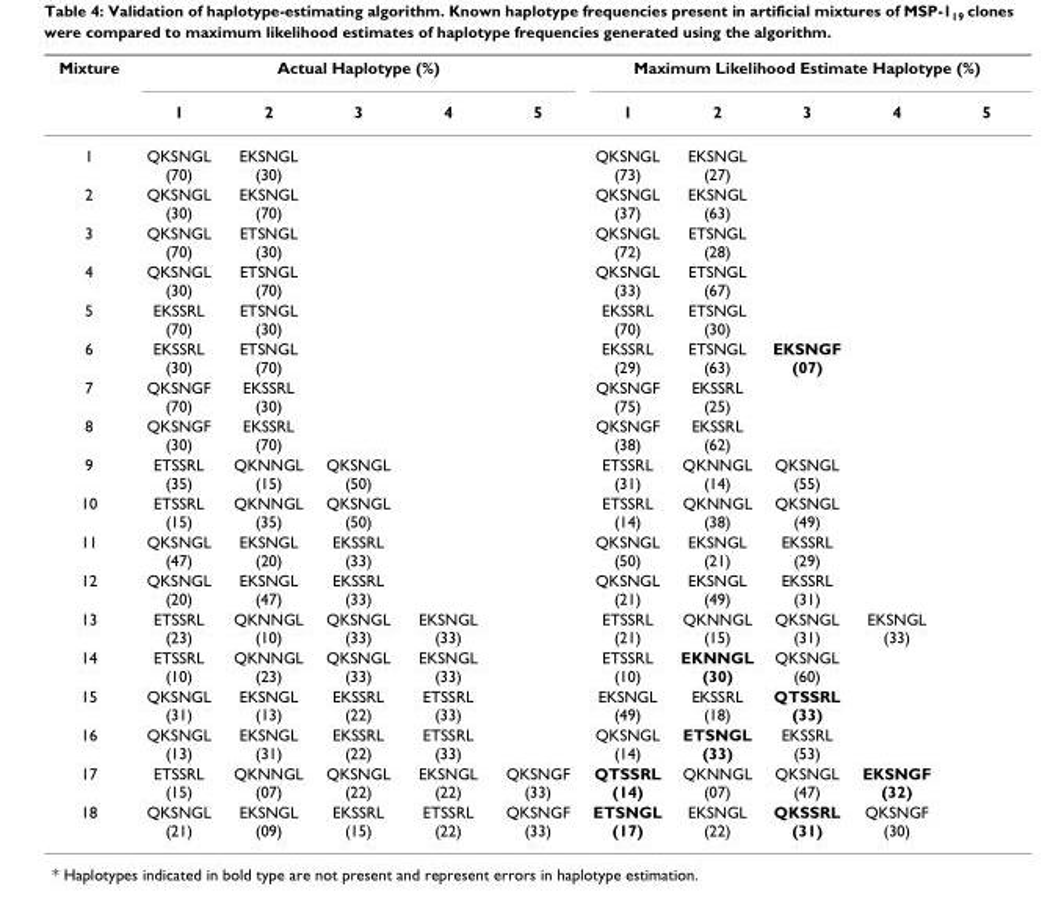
<table><thead><tr><td rowspan="2">Mixture</td><td colspan="5">Actual Haplotype (%)</td><td colspan="5">Maximum Likelihood Estimate Haplotype (%)</td></tr><tr><td>1</td><td>2</td><td>3</td><td>4</td><td>5</td><td>1</td><td>2</td><td>3</td><td>4</td><td>5</td></tr></thead><tbody><tr><td>1</td><td>QKSNGL (70)</td><td>EKSNGL (30)</td><td></td><td></td><td></td><td>QKSNGL (73)</td><td>EKSNGL (27)</td><td></td><td></td><td></td></tr><tr><td>2</td><td>QKSNGL (30)</td><td>EKSNGL (70)</td><td></td><td></td><td></td><td>QKSNGL (37)</td><td>EKSNGL (63)</td><td></td><td></td><td></td></tr><tr><td>3</td><td>QKSNGL (70)</td><td>ETSNGL (30)</td><td></td><td></td><td></td><td>QKSNGL (72)</td><td>ETSNGL (28)</td><td></td><td></td><td></td></tr><tr><td>4</td><td>QKSNGL (30)</td><td>ETSNGL (70)</td><td></td><td></td><td></td><td>QKSNGL (33)</td><td>ETSNGL (67)</td><td></td><td></td><td></td></tr><tr><td>5</td><td>EKSSRL (70)</td><td>ETSNGL (30)</td><td></td><td></td><td></td><td>EKSSRL (70)</td><td>ETSNGL (30)</td><td></td><td></td><td></td></tr><tr><td>6</td><td>EKSSRL (30)</td><td>ETSNGL (70)</td><td></td><td></td><td></td><td>EKSSRL (29)</td><td>ETSNGL (63)</td><td>EKSNGF (07)</td><td></td><td></td></tr><tr><td>7</td><td>QKSNGF (70)</td><td>EKSSRL (30)</td><td></td><td></td><td></td><td>QKSNGF (75)</td><td>EKSSRL (25)</td><td></td><td></td><td></td></tr><tr><td>8</td><td>QKSNGF (30)</td><td>EKSSRL (70)</td><td></td><td></td><td></td><td>QKSNGF (38)</td><td>EKSSRL (62)</td><td></td><td></td><td></td></tr><tr><td>9</td><td>ETSSRL (35)</td><td>QKNNGL (15)</td><td>QKSNGL (50)</td><td></td><td></td><td>ETSSRL (31)</td><td>QKNNGL (14)</td><td>QKSNGL (55)</td><td></td><td></td></tr><tr><td>10</td><td>ETSSRL (15)</td><td>QKNNGL (35)</td><td>QKSNGL (50)</td><td></td><td></td><td>ETSSRL (14)</td><td>QKNNGL (38)</td><td>QKSNGL (49)</td><td></td><td></td></tr><tr><td>11</td><td>QKSNGL (47)</td><td>EKSNGL (20)</td><td>EKSSRL (33)</td><td></td><td></td><td>QKSNGL (50)</td><td>EKSNGL (21)</td><td>EKSSRL (29)</td><td></td><td></td></tr><tr><td>12</td><td>QKSNGL (20)</td><td>EKSNGL (47)</td><td>EKSSRL (33)</td><td></td><td></td><td>QKSNGL (21)</td><td>EKSNGL (49)</td><td>EKSSRL (31)</td><td></td><td></td></tr><tr><td>13</td><td>ETSSRL (23)</td><td>QKNNGL (10)</td><td>QKSNGL (33)</td><td>EKSNGL (33)</td><td></td><td>ETSSRL (21)</td><td>QKNNGL (15)</td><td>QKSNGL (31)</td><td>EKSNGL (33)</td><td></td></tr><tr><td>14</td><td>ETSSRL (10)</td><td>QKNNGL (23)</td><td>QKSNGL (33)</td><td>EKSNGL (33)</td><td></td><td>ETSSRL (10)</td><td>EKNNGL (30)</td><td>QKSNGL (60)</td><td></td><td></td></tr><tr><td>15</td><td>QKSNGL (31)</td><td>EKSNGL (13)</td><td>EKSSRL (22)</td><td>ETSSRL (33)</td><td></td><td>EKSNGL (49)</td><td>EKSSRL (18)</td><td>QTSSRL (33)</td><td></td><td></td></tr><tr><td>16</td><td>QKSNGL (13)</td><td>EKSNGL (31)</td><td>EKSSRL (22)</td><td>ETSSRL (33)</td><td></td><td>QKSNGL (14)</td><td>ETSNGL (33)</td><td>EKSSRL (53)</td><td></td><td></td></tr><tr><td>17</td><td>ETSSRL (15)</td><td>QKNNGL (07)</td><td>QKSNGL (22)</td><td>EKSNGL (22)</td><td>QKSNGF (33)</td><td>QTSSRL (14)</td><td>QKNNGL (07)</td><td>QKSNGL (47)</td><td>EKSNGF (32)</td><td></td></tr><tr><td>18</td><td>QKSNGL (21)</td><td>EKSNGL (09)</td><td>EKSSRL (15)</td><td>ETSSRL (22)</td><td>QKSNGF (33)</td><td>ETSNGL (17)</td><td>EKSNGL (22)</td><td>QKSSRL (31)</td><td>QKSNGF (30)</td><td></td></tr></tbody></table>